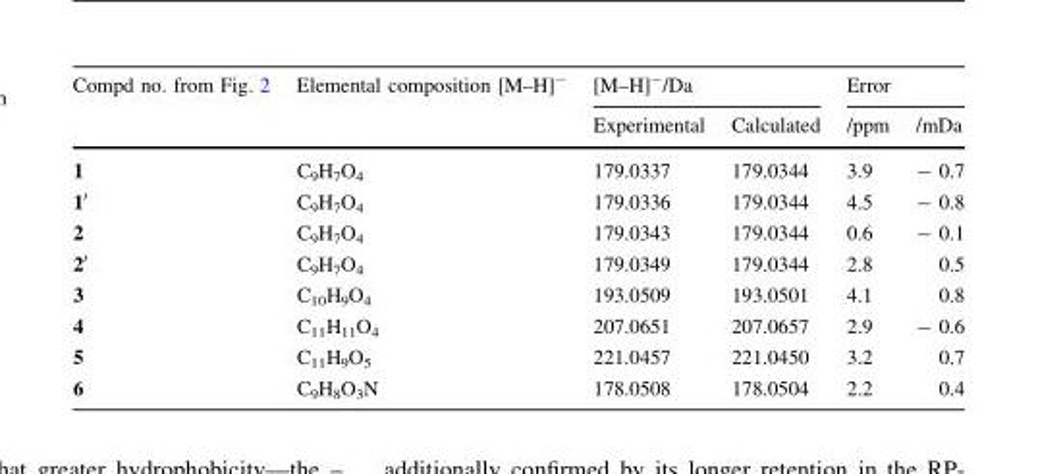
<table><thead><tr><td rowspan="2">Compd no. from Fig. 2</td><td rowspan="2">Elemental composition [M–H]<sup>-</sup></td><td colspan="2">[M–H]<sup>-</sup>/Da</td><td colspan="2">Error</td></tr><tr><td>Experimental</td><td>Calculated</td><td>/ppm</td><td>/mDa</td></tr></thead><tbody><tr><td>1</td><td>C<sub>9</sub>H<sub>7</sub>O<sub>4</sub></td><td>179.0337</td><td>179.0344</td><td>3.9</td><td>- 0.7</td></tr><tr><td>1′</td><td>C<sub>9</sub>H<sub>7</sub>O<sub>4</sub></td><td>179.0336</td><td>179.0344</td><td>4.5</td><td>- 0.8</td></tr><tr><td>2</td><td>C<sub>9</sub>H<sub>7</sub>O<sub>4</sub></td><td>179.0343</td><td>179.0344</td><td>0.6</td><td>- 0.1</td></tr><tr><td>2′</td><td>C<sub>9</sub>H<sub>7</sub>O<sub>4</sub></td><td>179.0349</td><td>179.0344</td><td>2.8</td><td>0.5</td></tr><tr><td>3</td><td>C<sub>10</sub>H<sub>9</sub>O<sub>4</sub></td><td>193.0509</td><td>193.0501</td><td>4.1</td><td>0.8</td></tr><tr><td>4</td><td>C<sub>11</sub>H<sub>11</sub>O<sub>4</sub></td><td>207.0651</td><td>207.0657</td><td>2.9</td><td>- 0.6</td></tr><tr><td>5</td><td>C<sub>11</sub>H<sub>9</sub>O<sub>5</sub></td><td>221.0457</td><td>221.0450</td><td>3.2</td><td>0.7</td></tr><tr><td>6</td><td>C<sub>9</sub>H<sub>8</sub>O<sub>3</sub>N</td><td>178.0508</td><td>178.0504</td><td>2.2</td><td>0.4</td></tr></tbody></table>